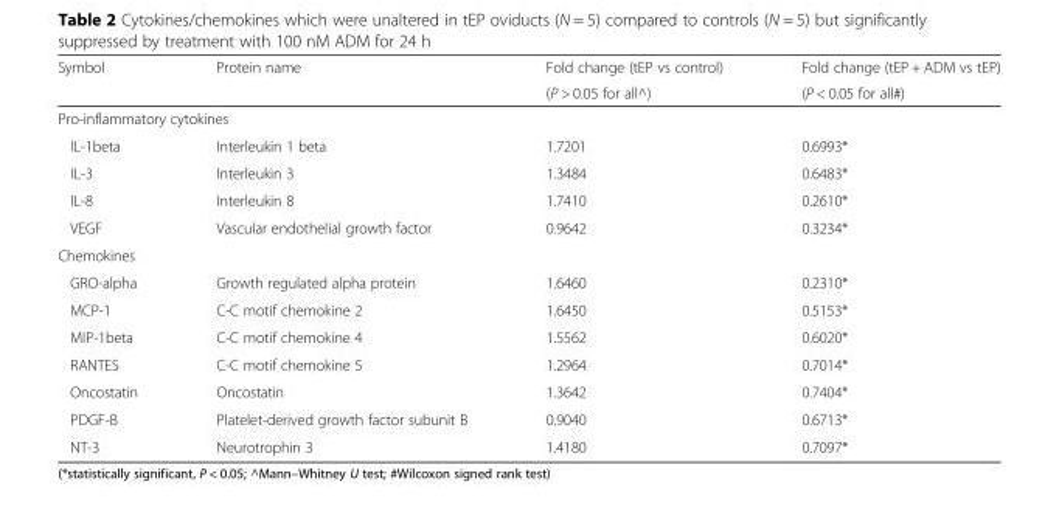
<table><thead><tr><td rowspan="2">Symbol</td><td rowspan="2">Protein name</td><td rowspan="2">Fold change (tEP vs control) (P &gt; 0.05 for all^)</td><td rowspan="2">Fold change (tEP + ADM vs tEP) (P &lt; 0.05 for all#)</td></tr><tr></tr></thead><tbody><tr><td colspan="4">Pro-inflammatory cytokines</td></tr><tr><td>IL-1beta</td><td>Interleukin 1 beta</td><td>1.7201</td><td>0.6993*</td></tr><tr><td>IL-3</td><td>Interleukin 3</td><td>1.3484</td><td>0.6483*</td></tr><tr><td>IL-8</td><td>Interleukin 8</td><td>1.7410</td><td>0.2610*</td></tr><tr><td>VEGF</td><td>Vascular endothelial growth factor</td><td>0.9642</td><td>0.3234*</td></tr><tr><td colspan="4">Chemokines</td></tr><tr><td>GRO-alpha</td><td>Growth regulated alpha protein</td><td>1.6460</td><td>0.2310*</td></tr><tr><td>MCP-1</td><td>C-C motif chemokine 2</td><td>1.6450</td><td>0.5153*</td></tr><tr><td>MIP-1beta</td><td>C-C motif chemokine 4</td><td>1.5562</td><td>0.6020*</td></tr><tr><td>RANTES</td><td>C-C motif chemokine 5</td><td>1.2964</td><td>0.7014*</td></tr><tr><td>Oncostatin</td><td>Oncostatin</td><td>1.3642</td><td>0.7404*</td></tr><tr><td>PDGF-B</td><td>Platelet-derived growth factor subunit B</td><td>0.9040</td><td>0.6713*</td></tr><tr><td>NT-3</td><td>Neurotrophin 3</td><td>1.4180</td><td>0.7097*</td></tr></tbody></table>